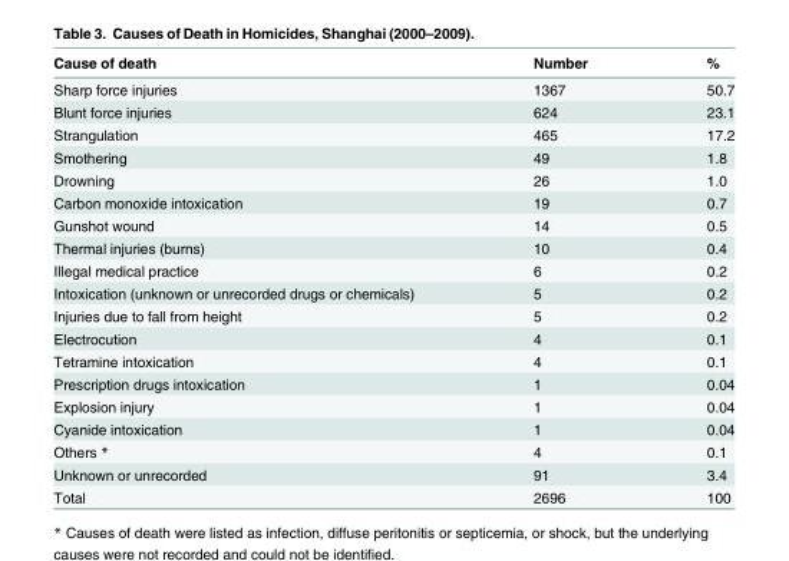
<table><thead><tr><td>Cause of death</td><td>Number</td><td>%</td></tr></thead><tbody><tr><td>Sharp force injuries</td><td>1367</td><td>50.7</td></tr><tr><td>Blunt force injuries</td><td>624</td><td>23.1</td></tr><tr><td>Strangulation</td><td>465</td><td>17.2</td></tr><tr><td>Smothering</td><td>49</td><td>1.8</td></tr><tr><td>Drowning</td><td>26</td><td>1.0</td></tr><tr><td>Carbon monoxide intoxication</td><td>19</td><td>0.7</td></tr><tr><td>Gunshot wound</td><td>14</td><td>0.5</td></tr><tr><td>Thermal injuries (burns)</td><td>10</td><td>0.4</td></tr><tr><td>Illegal medical practice</td><td>6</td><td>0.2</td></tr><tr><td>Intoxication (unknown or unrecorded drugs or chemicals)</td><td>5</td><td>0.2</td></tr><tr><td>Injuries due to fall from height</td><td>5</td><td>0.2</td></tr><tr><td>Electrocution</td><td>4</td><td>0.1</td></tr><tr><td>Tetramine intoxication</td><td>4</td><td>0.1</td></tr><tr><td>Prescription drugs intoxication</td><td>1</td><td>0.04</td></tr><tr><td>Explosion injury</td><td>1</td><td>0.04</td></tr><tr><td>Cyanide intoxication</td><td>1</td><td>0.04</td></tr><tr><td>Others *</td><td>4</td><td>0.1</td></tr><tr><td>Unknown or unrecorded</td><td>91</td><td>3.4</td></tr><tr><td>Total</td><td>2696</td><td>100</td></tr></tbody></table>